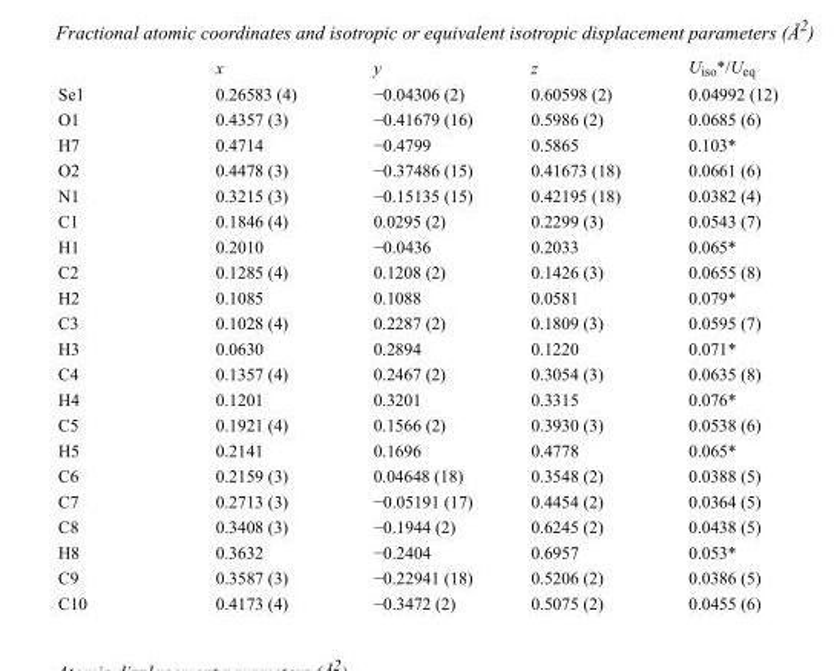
<table><thead><tr><td></td><td>x</td><td>y</td><td>z</td><td>U<sub>iso</sub>*/U<sub>eq</sub></td></tr></thead><tbody><tr><td>Se1</td><td>0.26583 (4)</td><td>−0.04306 (2)</td><td>0.60598 (2)</td><td>0.04992 (12)</td></tr><tr><td>O1</td><td>0.4357 (3)</td><td>−0.41679 (16)</td><td>0.5986 (2)</td><td>0.0685 (6)</td></tr><tr><td>H7</td><td>0.4714</td><td>−0.4799</td><td>0.5865</td><td>0.103*</td></tr><tr><td>O2</td><td>0.4478 (3)</td><td>−0.37486 (15)</td><td>0.41673 (18)</td><td>0.0661 (6)</td></tr><tr><td>N1</td><td>0.3215 (3)</td><td>−0.15135 (15)</td><td>0.42195 (18)</td><td>0.0382 (4)</td></tr><tr><td>C1</td><td>0.1846 (4)</td><td>0.0295 (2)</td><td>0.2299 (3)</td><td>0.0543 (7)</td></tr><tr><td>H1</td><td>0.2010</td><td>−0.0436</td><td>0.2033</td><td>0.065*</td></tr><tr><td>C2</td><td>0.1285 (4)</td><td>0.1208 (2)</td><td>0.1426 (3)</td><td>0.0655 (8)</td></tr><tr><td>H2</td><td>0.1085</td><td>0.1088</td><td>0.0581</td><td>0.079*</td></tr><tr><td>C3</td><td>0.1028 (4)</td><td>0.2287 (2)</td><td>0.1809 (3)</td><td>0.0595 (7)</td></tr><tr><td>H3</td><td>0.0630</td><td>0.2894</td><td>0.1220</td><td>0.071*</td></tr><tr><td>C4</td><td>0.1357 (4)</td><td>0.2467 (2)</td><td>0.3054 (3)</td><td>0.0635 (8)</td></tr><tr><td>H4</td><td>0.1201</td><td>0.3201</td><td>0.3315</td><td>0.076*</td></tr><tr><td>C5</td><td>0.1921 (4)</td><td>0.1566 (2)</td><td>0.3930 (3)</td><td>0.0538 (6)</td></tr><tr><td>H5</td><td>0.2141</td><td>0.1696</td><td>0.4778</td><td>0.065*</td></tr><tr><td>C6</td><td>0.2159 (3)</td><td>0.04648 (18)</td><td>0.3548 (2)</td><td>0.0388 (5)</td></tr><tr><td>C7</td><td>0.2713 (3)</td><td>−0.05191 (17)</td><td>0.4454 (2)</td><td>0.0364 (5)</td></tr><tr><td>C8</td><td>0.3408 (3)</td><td>−0.1944 (2)</td><td>0.6245 (2)</td><td>0.0438 (5)</td></tr><tr><td>H8</td><td>0.3632</td><td>−0.2404</td><td>0.6957</td><td>0.053*</td></tr><tr><td>C9</td><td>0.3587 (3)</td><td>−0.22941 (18)</td><td>0.5206 (2)</td><td>0.0386 (5)</td></tr><tr><td>C10</td><td>0.4173 (4)</td><td>−0.3472 (2)</td><td>0.5075 (2)</td><td>0.0455 (6)</td></tr></tbody></table>